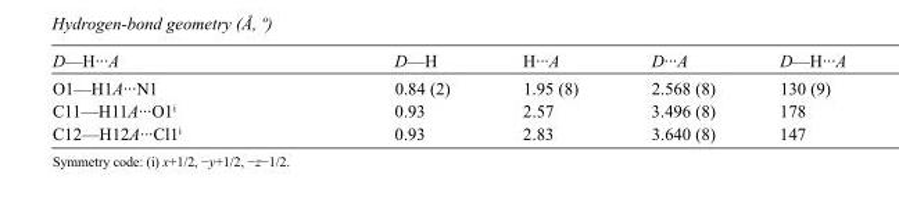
<table><tbody><tr><td>D—H···A</td><td>D—H</td><td>H···A</td><td>D···A</td><td>D—H···A</td></tr><tr><td>O1—H1A···N1</td><td>0.84 (2)</td><td>1.95 (8)</td><td>2.568 (8)</td><td>130 (9)</td></tr><tr><td>C11—H11A···O1<sup>i</sup></td><td>0.93</td><td>2.57</td><td>3.496 (8)</td><td>178</td></tr><tr><td>C12—H12A···Cl1<sup>i</sup></td><td>0.93</td><td>2.83</td><td>3.640 (8)</td><td>147</td></tr></tbody></table>